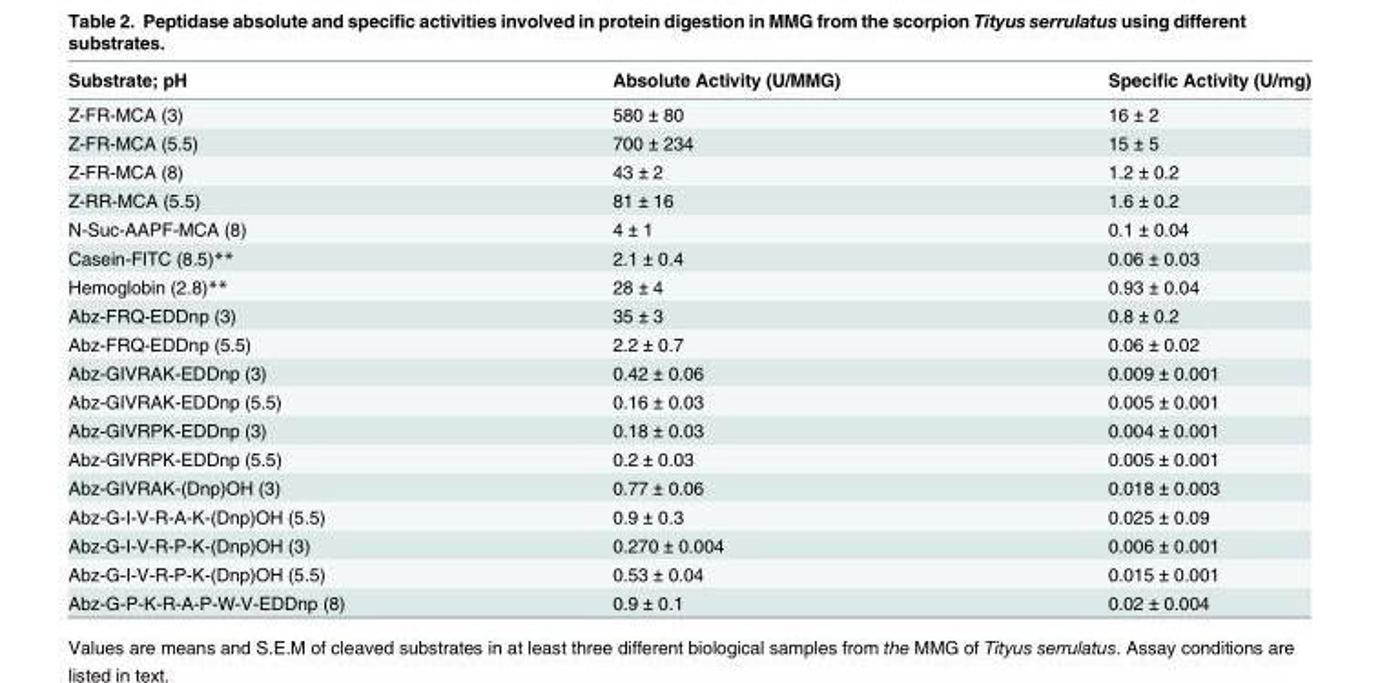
<table><thead><tr><td>Substrate; pH</td><td>Absolute Activity (U/MMG)</td><td>Specific Activity (U/mg)</td></tr></thead><tbody><tr><td>Z-FR-MCA (3)</td><td>580 ± 80</td><td>16 ± 2</td></tr><tr><td>Z-FR-MCA (5.5)</td><td>700 ± 234</td><td>15 ± 5</td></tr><tr><td>Z-FR-MCA (8)</td><td>43 ± 2</td><td>1.2 ± 0.2</td></tr><tr><td>Z-RR-MCA (5.5)</td><td>81 ± 16</td><td>1.6 ± 0.2</td></tr><tr><td>N-Suc-AAPF-MCA (8)</td><td>4 ± 1</td><td>0.1 ± 0.04</td></tr><tr><td>Casein-FITC (8.5)**</td><td>2.1 ± 0.4</td><td>0.06 ± 0.03</td></tr><tr><td>Hemoglobin (2.8)**</td><td>28 ± 4</td><td>0.93 ± 0.04</td></tr><tr><td>Abz-FRQ-EDDnp (3)</td><td>35 ± 3</td><td>0.8 ± 0.2</td></tr><tr><td>Abz-FRQ-EDDnp (5.5)</td><td>2.2 ± 0.7</td><td>0.06 ± 0.02</td></tr><tr><td>Abz-GIVRAK-EDDnp (3)</td><td>0.42 ± 0.06</td><td>0.009 ± 0.001</td></tr><tr><td>Abz-GIVRAK-EDDnp (5.5)</td><td>0.16 ± 0.03</td><td>0.005 ± 0.001</td></tr><tr><td>Abz-GIVRPK-EDDnp (3)</td><td>0.18 ± 0.03</td><td>0.004 ± 0.001</td></tr><tr><td>Abz-GIVRPK-EDDnp (5.5)</td><td>0.2 ± 0.03</td><td>0.005 ± 0.001</td></tr><tr><td>Abz-GIVRAK-(Dnp)OH (3)</td><td>0.77 ± 0.06</td><td>0.018 ± 0.003</td></tr><tr><td>Abz-G-I-V-R-A-K-(Dnp)OH (5.5)</td><td>0.9 ± 0.3</td><td>0.025 ± 0.09</td></tr><tr><td>Abz-G-I-V-R-P-K-(Dnp)OH (3)</td><td>0.270 ± 0.004</td><td>0.006 ± 0.001</td></tr><tr><td>Abz-G-I-V-R-P-K-(Dnp)OH (5.5)</td><td>0.53 ± 0.04</td><td>0.015 ± 0.001</td></tr><tr><td>Abz-G-P-K-R-A-P-W-V-EDDnp (8)</td><td>0.9 ± 0.1</td><td>0.02 ± 0.004</td></tr></tbody></table>